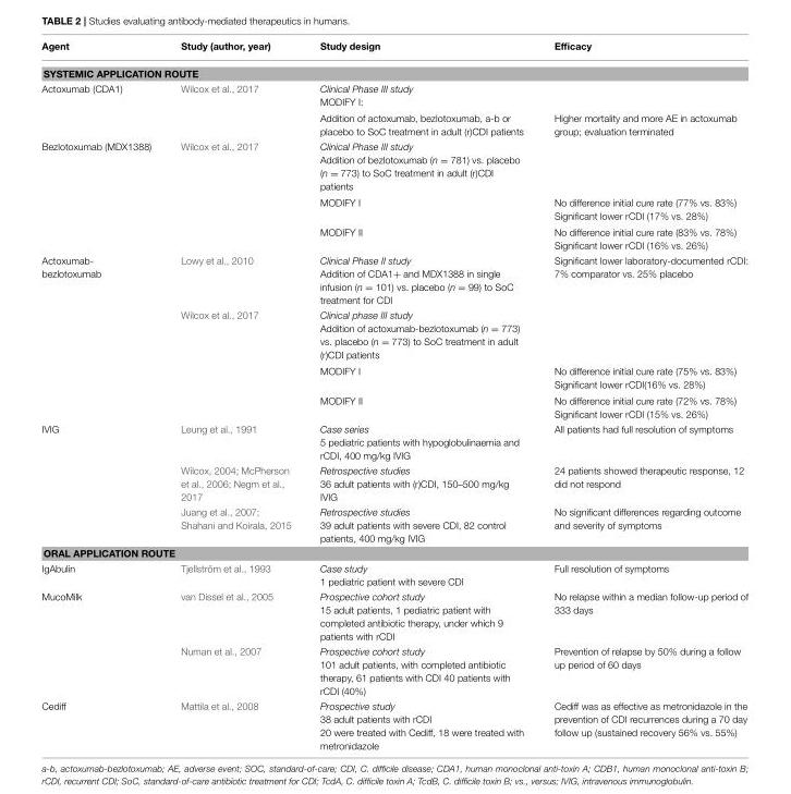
<table><thead><tr><td>Agent</td><td>Study (author, year)</td><td>Study design</td><td>Efficacy</td></tr></thead><tbody><tr><td colspan="4">SYSTEMIC APPLICATION ROUTE</td></tr><tr><td rowspan="2">Actoxumab (CDA1)</td><td>Wilcox et al., 2017</td><td>Clinical Phase III study MODIFY I:</td><td></td></tr><tr><td></td><td>Addition of actoxumab, bezlotoxumab, a-b or placebo to SoC treatment in adult (r)CDI patients</td><td>Higher mortality and more AE in actoxumab group; evaluation terminated</td></tr><tr><td rowspan="3">Bezlotoxumab (MDX1388)</td><td>Wilcox et al., 2017</td><td>Clinical Phase III study Addition of bezlotoxumab (n = 781) vs. placebo (n = 773) to SoC treatment in adult (r)CDI patients</td><td></td></tr><tr><td></td><td>MODIFY I</td><td>No difference initial cure rate (77% vs. 83%) Significant lower rCDI (17% vs. 28%)</td></tr><tr><td></td><td>MODIFY II</td><td>No difference initial cure rate (83% vs. 78%) Significant lower rCDI (16% vs. 26%)</td></tr><tr><td rowspan="4">Actoxumab- bezlotoxumab</td><td>Lowy et al., 2010</td><td>Clinical Phase II study Addition of CDA1+ and MDX1388 in single infusion (n = 101) vs. placebo (n = 99) to SoC treatment for CDI</td><td>Significant lower laboratory-documented rCDI: 7% comparator vs. 25% placebo</td></tr><tr><td>Wilcox et al., 2017</td><td>Clinical phase III study Addition of actoxumab-bezlotoxumab (n = 773) vs. placebo (n = 773) to SoC treatment in adult (r)CDI patients</td><td></td></tr><tr><td></td><td>MODIFY I</td><td>No difference initial cure rate (75% vs. 83%) Significant lower rCDI(16% vs. 28%)</td></tr><tr><td></td><td>MODIFY II</td><td>No difference initial cure rate (72% vs. 78%) Significant lower rCDI (15% vs. 26%)</td></tr><tr><td rowspan="3">IVIG</td><td>Leung et al., 1991</td><td>Case series 5 pediatric patients with hypoglobulinaemia and rCDI, 400 mg/kg IVIG</td><td>All patients had full resolution of symptoms</td></tr><tr><td>Wilcox, 2004; McPherson et al., 2006; Negm et al., 2017</td><td>Retrospective studies 36 adult patients with (r)CDI, 150–500 mg/kg IVIG</td><td>24 patients showed therapeutic response, 12 did not respond</td></tr><tr><td>Juang et al., 2007; Shahani and Koirala, 2015</td><td>Retrospective studies 39 adult patients with severe CDI, 82 control patients, 400 mg/kg IVIG</td><td>No significant differences regarding outcome and severity of symptoms</td></tr><tr><td colspan="4">ORAL APPLICATION ROUTE</td></tr><tr><td>IgAbulin</td><td>Tjellström et al., 1993</td><td>Case study 1 pediatric patient with severe CDI</td><td>Full resolution of symptoms</td></tr><tr><td rowspan="2">MucoMilk</td><td>van Dissel et al., 2005</td><td>Prospective cohort study 15 adult patients, 1 pediatric patient with completed antibiotic therapy, under which 9 patients with rCDI</td><td>No relapse within a median follow-up period of 333 days</td></tr><tr><td>Numan et al., 2007</td><td>Prospective cohort study 101 adult patients, with completed antibiotic therapy, 61 patients with CDI 40 patients with rCDI (40%)</td><td>Prevention of relapse by 50% during a follow up period of 60 days</td></tr><tr><td>Cediff</td><td>Mattila et al., 2008</td><td>Prospective study 38 adult patients with rCDI 20 were treated with Cediff, 18 were treated with metronidazole</td><td>Cediff was as effective as metronidazole in the prevention of CDI recurrences during a 70 day follow up (sustained recovery 56% vs. 55%)</td></tr></tbody></table>